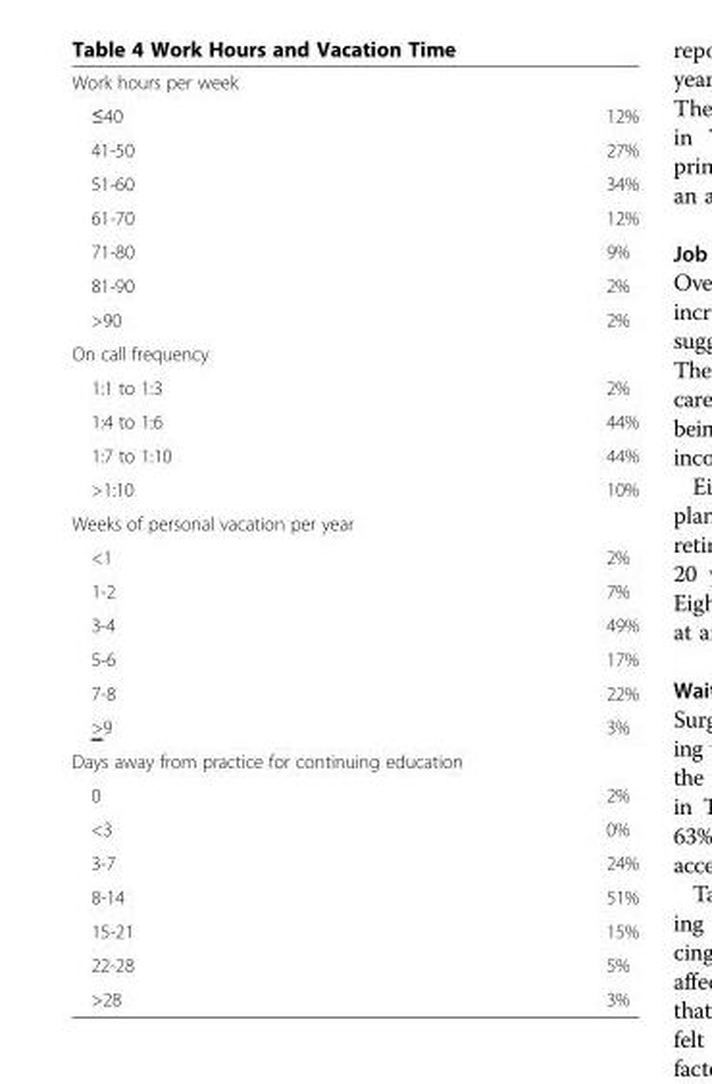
<table><tbody><tr><td colspan="2">Work hours per week</td></tr><tr><td>≤40</td><td>12%</td></tr><tr><td>41-50</td><td>27%</td></tr><tr><td>51-60</td><td>34%</td></tr><tr><td>61-70</td><td>12%</td></tr><tr><td>71-80</td><td>9%</td></tr><tr><td>81-90</td><td>2%</td></tr><tr><td>&gt;90</td><td>2%</td></tr><tr><td colspan="2">On call frequency</td></tr><tr><td>1:1 to 1:3</td><td>2%</td></tr><tr><td>1:4 to 1:6</td><td>44%</td></tr><tr><td>1:7 to 1:10</td><td>44%</td></tr><tr><td>&gt;1:10</td><td>10%</td></tr><tr><td colspan="2">Weeks of personal vacation per year</td></tr><tr><td>&lt;1</td><td>2%</td></tr><tr><td>1-2</td><td>7%</td></tr><tr><td>3-4</td><td>49%</td></tr><tr><td>5-6</td><td>17%</td></tr><tr><td>7-8</td><td>22%</td></tr><tr><td>&gt;9</td><td>3%</td></tr><tr><td colspan="2">Days away from practice for continuing education</td></tr><tr><td>0</td><td>2%</td></tr><tr><td>&lt;3</td><td>0%</td></tr><tr><td>3-7</td><td>24%</td></tr><tr><td>8-14</td><td>51%</td></tr><tr><td>15-21</td><td>15%</td></tr><tr><td>22-28</td><td>5%</td></tr><tr><td>&gt;28</td><td>3%</td></tr></tbody></table>